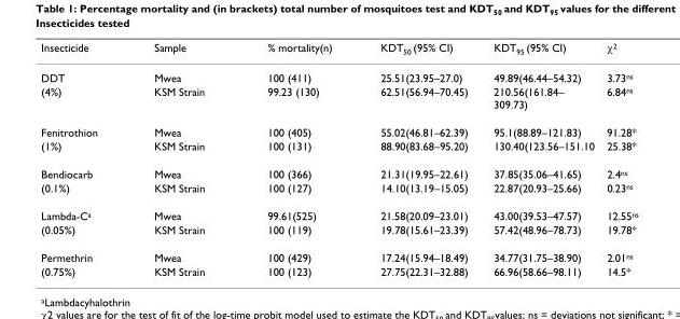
<table><thead><tr><td>Insecticide</td><td>Sample</td><td>% mortality(n)</td><td>KDT<sub>50</sub> (95% CI)</td><td>KDT<sub>95</sub> (95% CI)</td><td>χ<sup>2</sup></td></tr></thead><tbody><tr><td>DDT</td><td>Mwea</td><td>100 (411)</td><td>25.51(23.95–27.0)</td><td>49.89(46.44–54.32)</td><td>3.73<sup>ns</sup></td></tr><tr><td>(4%)</td><td>KSM Strain</td><td>99.23 (130)</td><td>62.51(56.94–70.45)</td><td>210.56(161.84– 309.73)</td><td>6.84<sup>ns</sup></td></tr><tr><td>Fenitrothion</td><td>Mwea</td><td>100 (405)</td><td>55.02(46.81–62.39)</td><td>95.1(88.89–121.83)</td><td>91.28*</td></tr><tr><td>(1%)</td><td>KSM Strain</td><td>100 (131)</td><td>88.90(83.68–95.20)</td><td>130.40(123.56–151.10</td><td>25.38*</td></tr><tr><td>Bendiocarb</td><td>Mwea</td><td>100 (366)</td><td>21.31(19.95–22.61)</td><td>37.85(35.06–41.65)</td><td>2.4<sup>ns</sup></td></tr><tr><td>(0.1%)</td><td>KSM Strain</td><td>100 (127)</td><td>14.10(13.19–15.05)</td><td>22.87(20.93–25.66)</td><td>0.23<sup>ns</sup></td></tr><tr><td>Lambda-C<sup>a</sup></td><td>Mwea</td><td>99.61(525)</td><td>21.58(20.09–23.01)</td><td>43.00(39.53–47.57)</td><td>12.55<sup>ns</sup></td></tr><tr><td>(0.05%)</td><td>KSM Strain</td><td>100 (119)</td><td>19.78(15.61–23.39)</td><td>57.42(48.96–78.73)</td><td>19.78*</td></tr><tr><td>Permethrin</td><td>Mwea</td><td>100 (429)</td><td>17.24(15.94–18.49)</td><td>34.77(31.75–38.90)</td><td>2.01<sup>ns</sup></td></tr><tr><td>(0.75%)</td><td>KSM Strain</td><td>100 (123)</td><td>27.75(22.31–32.88)</td><td>66.96(58.66–98.11)</td><td>14.5*</td></tr></tbody></table>